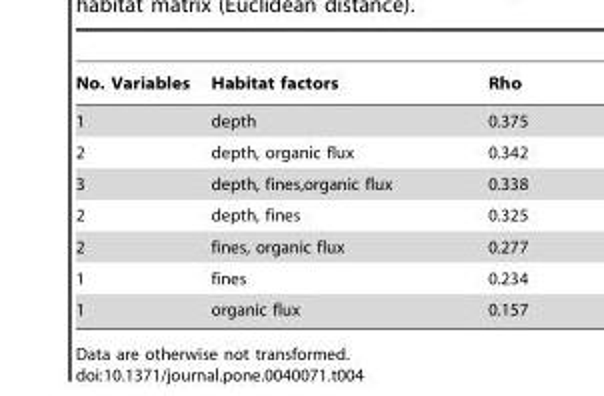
<table><thead><tr><td>No. Variables</td><td>Habitat factors</td><td>Rho</td></tr></thead><tbody><tr><td>1</td><td>depth</td><td>0.375</td></tr><tr><td>2</td><td>depth, organic flux</td><td>0.342</td></tr><tr><td>3</td><td>depth, fines,organic flux</td><td>0.338</td></tr><tr><td>2</td><td>depth, fines</td><td>0.325</td></tr><tr><td>2</td><td>fines, organic flux</td><td>0.277</td></tr><tr><td>1</td><td>fines</td><td>0.234</td></tr><tr><td>1</td><td>organic flux</td><td>0.157</td></tr></tbody></table>